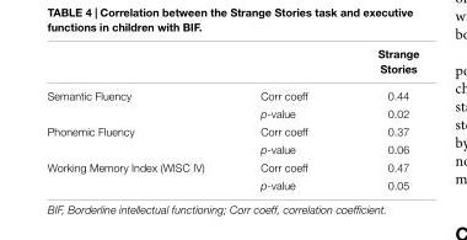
<table><thead><tr><td></td><td></td><td>Strange Stories</td></tr></thead><tbody><tr><td rowspan="2">Semantic Fluency</td><td>Corr coeff</td><td>0.44</td></tr><tr><td>p-value</td><td>0.02</td></tr><tr><td rowspan="2">Phonemic Fluency</td><td>Corr coeff</td><td>0.37</td></tr><tr><td>p-value</td><td>0.06</td></tr><tr><td rowspan="2">Working Memory Index (WISC IV)</td><td>Corr coeff</td><td>0.47</td></tr><tr><td>p-value</td><td>0.05</td></tr></tbody></table>